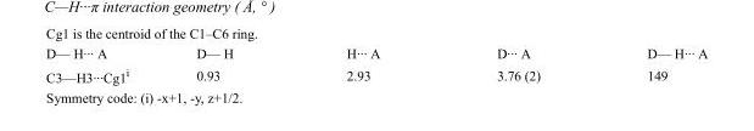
<table><tbody><tr><td>D— H··· A</td><td>D— H</td><td>H··· A</td><td>D··· A</td><td>D— H··· A</td></tr><tr><td>C3—H3···Cg1<sup>i</sup></td><td>0.93</td><td>2.93</td><td>3.76 (2)</td><td>149</td></tr></tbody></table>